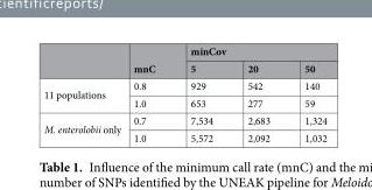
<table><thead><tr><td rowspan="2"></td><td rowspan="2">mnC</td><td colspan="3">minCov</td></tr><tr><td>5</td><td>20</td><td>50</td></tr></thead><tbody><tr><td rowspan="2">11 populations</td><td>0.8</td><td>929</td><td>542</td><td>140</td></tr><tr><td>1.0</td><td>653</td><td>277</td><td>59</td></tr><tr><td rowspan="2">M. enterolobii only</td><td>0.7</td><td>7,534</td><td>2,683</td><td>1,324</td></tr><tr><td>1.0</td><td>5,572</td><td>2,092</td><td>1,032</td></tr></tbody></table>